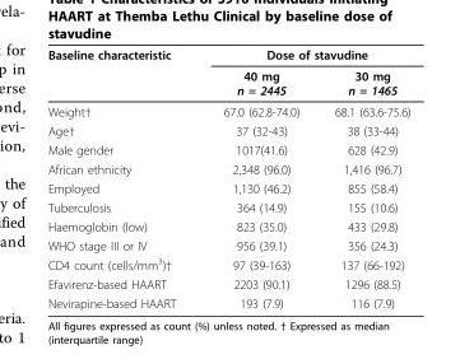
<table><thead><tr><td rowspan="2">Baseline characteristic</td><td colspan="2">Dose of stavudine</td></tr><tr><td>40 mg n = 2445</td><td>30 mg n = 1465</td></tr></thead><tbody><tr><td>Weight†</td><td>67.0 (62.8-74.0)</td><td>68.1 (63.6-75.6)</td></tr><tr><td>Age†</td><td>37 (32-43)</td><td>38 (33-44)</td></tr><tr><td>Male gender</td><td>1017(41.6)</td><td>628 (42.9)</td></tr><tr><td>African ethnicity</td><td>2,348 (96.0)</td><td>1,416 (96.7)</td></tr><tr><td>Employed</td><td>1,130 (46.2)</td><td>855 (58.4)</td></tr><tr><td>Tuberculosis</td><td>364 (14.9)</td><td>155 (10.6)</td></tr><tr><td>Haemoglobin (low)</td><td>823 (35.0)</td><td>433 (29.8)</td></tr><tr><td>WHO stage III or IV</td><td>956 (39.1)</td><td>356 (24.3)</td></tr><tr><td>CD4 count (cells/mm<sup>3</sup>)†</td><td>97 (39-163)</td><td>137 (66-192)</td></tr><tr><td>Efavirenz-based HAART</td><td>2203 (90.1)</td><td>1296 (88.5)</td></tr><tr><td>Nevirapine-based HAART</td><td>193 (7.9)</td><td>116 (7.9)</td></tr></tbody></table>